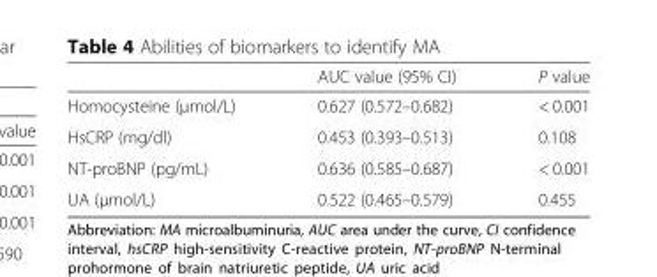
<table><thead><tr><td></td><td>AUC value (95% CI)</td><td>P value</td></tr></thead><tbody><tr><td>Homocysteine (μmol/L)</td><td>0.627 (0.572–0.682)</td><td>&lt; 0.001</td></tr><tr><td>HsCRP (mg/dl)</td><td>0.453 (0.393–0.513)</td><td>0.108</td></tr><tr><td>NT-proBNP (pg/mL)</td><td>0.636 (0.585–0.687)</td><td>&lt; 0.001</td></tr><tr><td>UA (μmol/L)</td><td>0.522 (0.465–0.579)</td><td>0.455</td></tr></tbody></table>